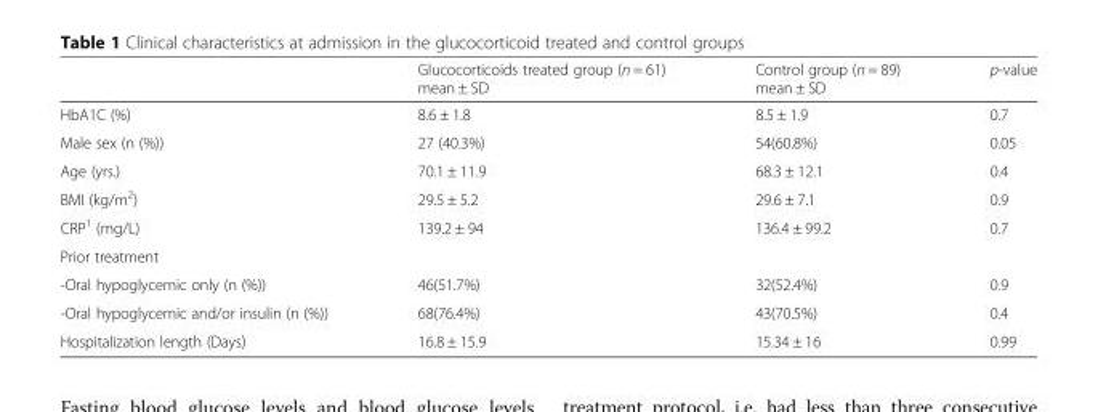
<table><thead><tr><td></td><td>Glucocorticoids treated group (n = 61) mean ± SD</td><td>Control group (n = 89) mean ± SD</td><td>p-value</td></tr></thead><tbody><tr><td>HbA1C (%)</td><td>8.6 ± 1.8</td><td>8.5 ± 1.9</td><td>0.7</td></tr><tr><td>Male sex (n (%))</td><td>27 (40.3%)</td><td>54(60.8%)</td><td>0.05</td></tr><tr><td>Age (yrs.)</td><td>70.1 ± 11.9</td><td>68.3 ± 12.1</td><td>0.4</td></tr><tr><td>BMI (kg/m<sup>2</sup>)</td><td>29.5 ± 5.2</td><td>29.6 ± 7.1</td><td>0.9</td></tr><tr><td>CRP<sup>1</sup> (mg/L)</td><td>139.2 ± 94</td><td>136.4 ± 99.2</td><td>0.7</td></tr><tr><td colspan="4">Prior treatment</td></tr><tr><td>-Oral hypoglycemic only (n (%))</td><td>46(51.7%)</td><td>32(52.4%)</td><td>0.9</td></tr><tr><td>-Oral hypoglycemic and/or insulin (n (%))</td><td>68(76.4%)</td><td>43(70.5%)</td><td>0.4</td></tr><tr><td>Hospitalization length (Days)</td><td>16.8 ± 15.9</td><td>15.34 ± 16</td><td>0.99</td></tr></tbody></table>